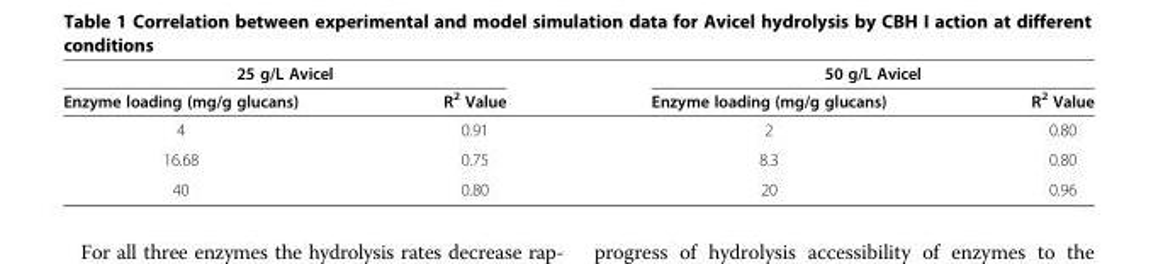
<table><thead><tr><td colspan="2">25 g/L Avicel</td><td colspan="2">50 g/L Avicel</td></tr><tr><td>Enzyme loading (mg/g glucans)</td><td>R<sup>2</sup> Value</td><td>Enzyme loading (mg/g glucans)</td><td>R<sup>2</sup> Value</td></tr></thead><tbody><tr><td>4</td><td>0.91</td><td>2</td><td>0.80</td></tr><tr><td>16.68</td><td>0.75</td><td>8.3</td><td>0.80</td></tr><tr><td>40</td><td>0.80</td><td>20</td><td>0.96</td></tr></tbody></table>